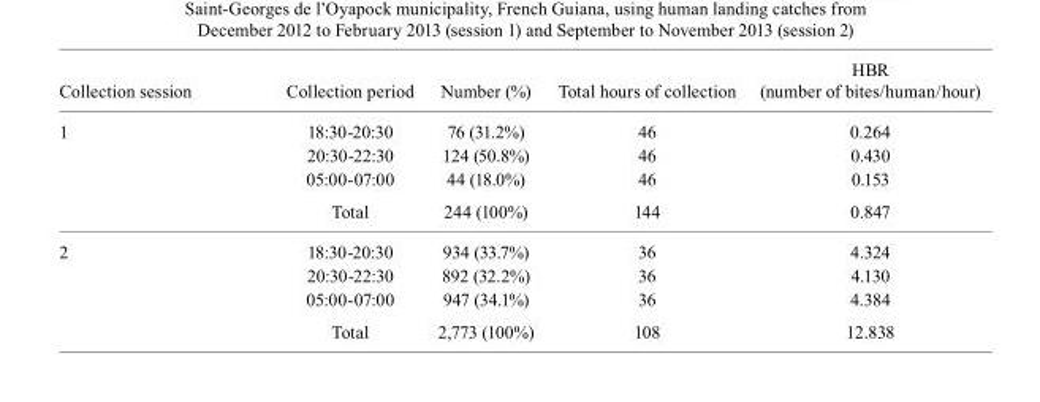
<table><thead><tr><td>Collection session</td><td>Collection period</td><td>Number (%)</td><td>Total hours of collection</td><td>HBR (number of bites/human/hour)</td></tr></thead><tbody><tr><td rowspan="4">1</td><td>18:30-20:30</td><td>76 (31.2%)</td><td>46</td><td>0.264</td></tr><tr><td>20:30-22:30</td><td>124 (50.8%)</td><td>46</td><td>0.430</td></tr><tr><td>05:00-07:00</td><td>44 (18.0%)</td><td>46</td><td>0.153</td></tr><tr><td>Total</td><td>244 (100%)</td><td>144</td><td>0.847</td></tr><tr><td rowspan="4">2</td><td>18:30-20:30</td><td>934 (33.7%)</td><td>36</td><td>4.324</td></tr><tr><td>20:30-22:30</td><td>892 (32.2%)</td><td>36</td><td>4.130</td></tr><tr><td>05:00-07:00</td><td>947 (34.1%)</td><td>36</td><td>4.384</td></tr><tr><td>Total</td><td>2,773 (100%)</td><td>108</td><td>12.838</td></tr></tbody></table>